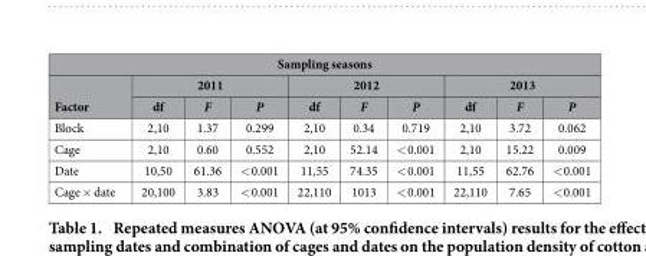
<table><thead><tr><td colspan="10">Sampling seasons</td></tr><tr><td rowspan="2">Factor</td><td colspan="3">2011</td><td colspan="3">2012</td><td colspan="3">2013</td></tr><tr><td>df</td><td>F</td><td>P</td><td>df</td><td>F</td><td>P</td><td>df</td><td>F</td><td>P</td></tr></thead><tbody><tr><td>Block</td><td>2,10</td><td>1.37</td><td>0.299</td><td>2,10</td><td>0.34</td><td>0.719</td><td>2,10</td><td>3.72</td><td>0.062</td></tr><tr><td>Cage</td><td>2,10</td><td>0.60</td><td>0.552</td><td>2,10</td><td>52.14</td><td>&lt; 0.001</td><td>2,10</td><td>15.22</td><td>0.009</td></tr><tr><td>Date</td><td>10,50</td><td>61.36</td><td>&lt; 0.001</td><td>11,55</td><td>74.35</td><td>&lt; 0.001</td><td>11,55</td><td>62.76</td><td>&lt; 0.001</td></tr><tr><td>Cage × date</td><td>20,100</td><td>3.83</td><td>&lt; 0.001</td><td>22,110</td><td>1013</td><td>&lt; 0.001</td><td>22,110</td><td>7.65</td><td>&lt; 0.001</td></tr></tbody></table>